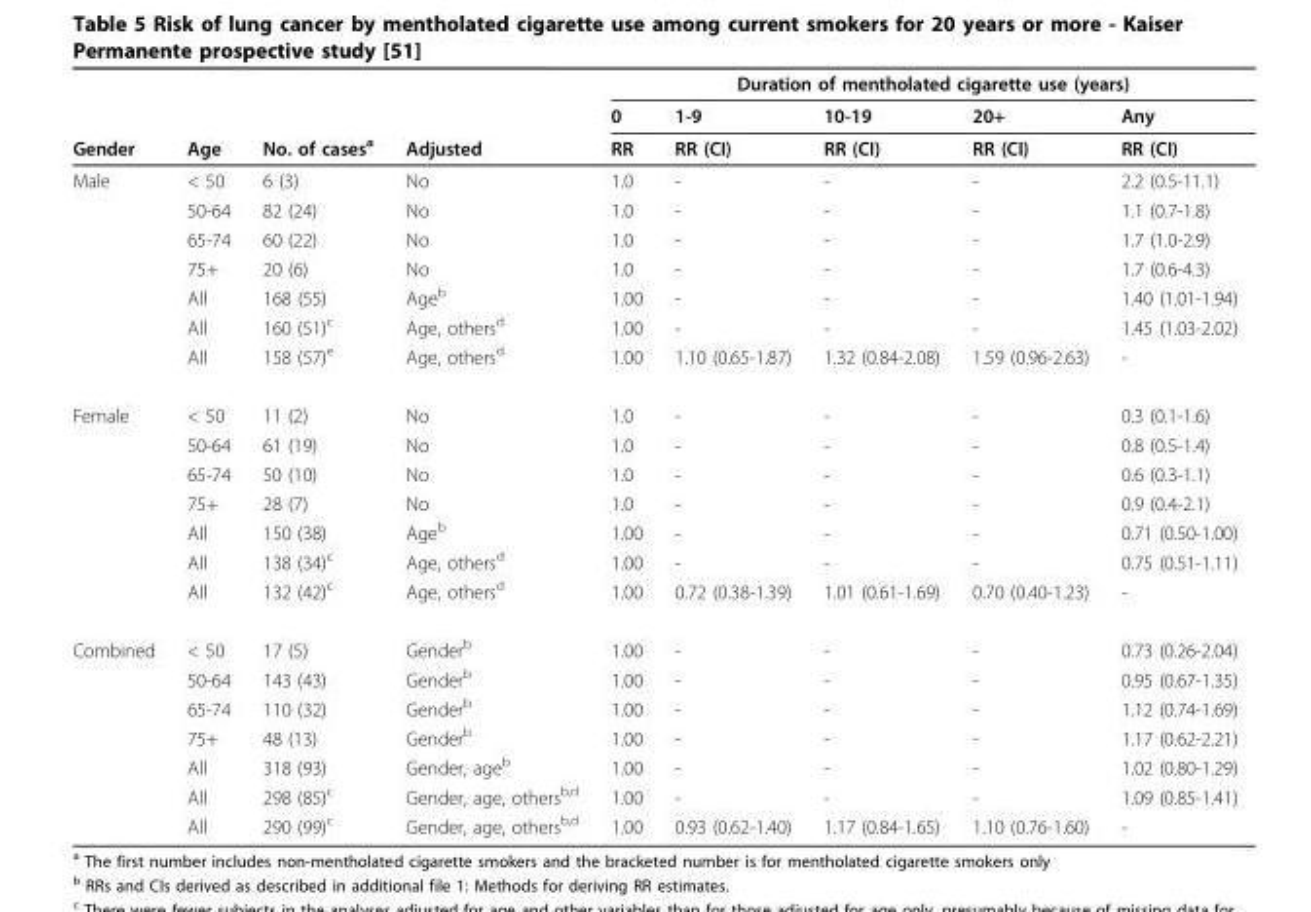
<table><thead><tr><td rowspan="3">Gender</td><td rowspan="3">Age</td><td rowspan="3">No. of cases<sup>a</sup></td><td rowspan="3">Adjusted</td><td colspan="5">Duration of mentholated cigarette use (years)</td></tr><tr><td rowspan="2">0 RR</td><td rowspan="2">1-9 RR (CI)</td><td rowspan="2">10-19 RR (CI)</td><td rowspan="2">20+ RR (CI)</td><td rowspan="2">Any RR (CI)</td></tr><tr></tr></thead><tbody><tr><td rowspan="7">Male</td><td>&lt; 50</td><td>6 (3)</td><td>No</td><td>1.0</td><td>-</td><td>-</td><td>-</td><td>2.2 (0.5-11.1)</td></tr><tr><td>50-64</td><td>82 (24)</td><td>No</td><td>1.0</td><td>-</td><td>-</td><td>-</td><td>1.1 (0.7-1.8)</td></tr><tr><td>65-74</td><td>60 (22)</td><td>No</td><td>1.0</td><td>-</td><td>-</td><td>-</td><td>1.7 (1.0-2.9)</td></tr><tr><td>75+</td><td>20 (6)</td><td>No</td><td>1.0</td><td>-</td><td>-</td><td>-</td><td>1.7 (0.6-4.3)</td></tr><tr><td>All</td><td>168 (55)</td><td>Age<sup>b</sup></td><td>1.00</td><td>-</td><td>-</td><td>-</td><td>1.40 (1.01-1.94)</td></tr><tr><td>All</td><td>160 (51)<sup>c</sup></td><td>Age, others<sup>d</sup></td><td>1.00</td><td>-</td><td>-</td><td>-</td><td>1.45 (1.03-2.02)</td></tr><tr><td>All</td><td>158 (57)<sup>e</sup></td><td>Age, others<sup>d</sup></td><td>1.00</td><td>1.10 (0.65-1.87)</td><td>1.32 (0.84-2.08)</td><td>1.59 (0.96-2.63)</td><td>-</td></tr><tr><td rowspan="7">Female</td><td>&lt; 50</td><td>11 (2)</td><td>No</td><td>1.0</td><td>-</td><td>-</td><td>-</td><td>0.3 (0.1-1.6)</td></tr><tr><td>50-64</td><td>61 (19)</td><td>No</td><td>1.0</td><td>-</td><td>-</td><td>-</td><td>0.8 (0.5-1.4)</td></tr><tr><td>65-74</td><td>50 (10)</td><td>No</td><td>1.0</td><td>-</td><td>-</td><td>-</td><td>0.6 (0.3-1.1)</td></tr><tr><td>75+</td><td>28 (7)</td><td>No</td><td>1.0</td><td>-</td><td>-</td><td>-</td><td>0.9 (0.4-2.1)</td></tr><tr><td>All</td><td>150 (38)</td><td>Age<sup>b</sup></td><td>1.00</td><td>-</td><td>-</td><td>-</td><td>0.71 (0.50-1.00)</td></tr><tr><td>All</td><td>138 (34)<sup>c</sup></td><td>Age, others<sup>d</sup></td><td>1.00</td><td>-</td><td>-</td><td>-</td><td>0.75 (0.51-1.11)</td></tr><tr><td>All</td><td>132 (42)<sup>c</sup></td><td>Age, others<sup>d</sup></td><td>1.00</td><td>0.72 (0.38-1.39)</td><td>1.01 (0.61-1.69)</td><td>0.70 (0.40-1.23)</td><td>-</td></tr><tr><td rowspan="7">Combined</td><td>&lt; 50</td><td>17 (5)</td><td>Gender<sup>b</sup></td><td>1.00</td><td>-</td><td>-</td><td>-</td><td>0.73 (0.26-2.04)</td></tr><tr><td>50-64</td><td>143 (43)</td><td>Gender<sup>b</sup></td><td>1.00</td><td>-</td><td>-</td><td>-</td><td>0.95 (0.67-1.35)</td></tr><tr><td>65-74</td><td>110 (32)</td><td>Gender<sup>b</sup></td><td>1.00</td><td>-</td><td>-</td><td>-</td><td>1.12 (0.74-1.69)</td></tr><tr><td>75+</td><td>48 (13)</td><td>Gender<sup>b</sup></td><td>1.00</td><td>-</td><td>-</td><td>-</td><td>1.17 (0.62-2.21)</td></tr><tr><td>All</td><td>318 (93)</td><td>Gender, age<sup>b</sup></td><td>1.00</td><td>-</td><td>-</td><td>-</td><td>1.02 (0.80-1.29)</td></tr><tr><td>All</td><td>298 (85)<sup>c</sup></td><td>Gender, age, others<sup>b,d</sup></td><td>1.00</td><td>-</td><td>-</td><td>-</td><td>1.09 (0.85-1.41)</td></tr><tr><td>All</td><td>290 (99)<sup>c</sup></td><td>Gender, age, others<sup>b,d</sup></td><td>1.00</td><td>0.93 (0.62-1.40)</td><td>1.17 (0.84-1.65)</td><td>1.10 (0.76-1.60)</td><td>-</td></tr></tbody></table>